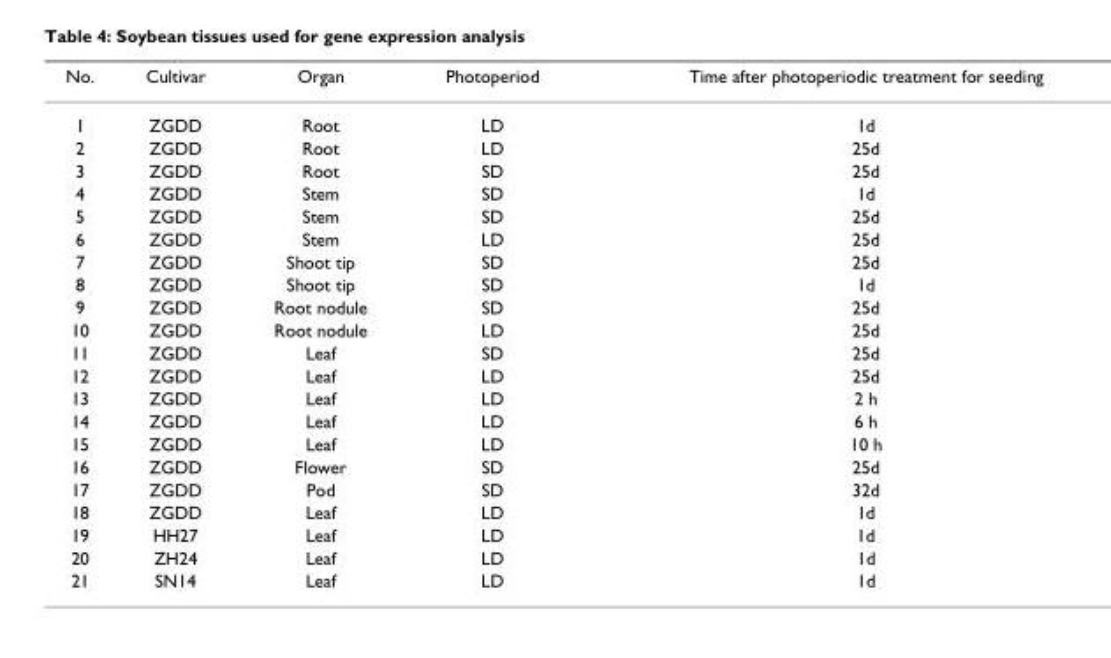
<table><thead><tr><td>No.</td><td>Cultivar</td><td>Organ</td><td>Photoperiod</td><td>Time after photoperiodic treatment for seeding</td></tr></thead><tbody><tr><td>1</td><td>ZGDD</td><td>Root</td><td>LD</td><td>1d</td></tr><tr><td>2</td><td>ZGDD</td><td>Root</td><td>LD</td><td>25d</td></tr><tr><td>3</td><td>ZGDD</td><td>Root</td><td>SD</td><td>25d</td></tr><tr><td>4</td><td>ZGDD</td><td>Stem</td><td>SD</td><td>1d</td></tr><tr><td>5</td><td>ZGDD</td><td>Stem</td><td>SD</td><td>25d</td></tr><tr><td>6</td><td>ZGDD</td><td>Stem</td><td>LD</td><td>25d</td></tr><tr><td>7</td><td>ZGDD</td><td>Shoot tip</td><td>SD</td><td>25d</td></tr><tr><td>8</td><td>ZGDD</td><td>Shoot tip</td><td>SD</td><td>1d</td></tr><tr><td>9</td><td>ZGDD</td><td>Root nodule</td><td>SD</td><td>25d</td></tr><tr><td>10</td><td>ZGDD</td><td>Root nodule</td><td>LD</td><td>25d</td></tr><tr><td>11</td><td>ZGDD</td><td>Leaf</td><td>SD</td><td>25d</td></tr><tr><td>12</td><td>ZGDD</td><td>Leaf</td><td>LD</td><td>25d</td></tr><tr><td>13</td><td>ZGDD</td><td>Leaf</td><td>LD</td><td>2 h</td></tr><tr><td>14</td><td>ZGDD</td><td>Leaf</td><td>LD</td><td>6 h</td></tr><tr><td>15</td><td>ZGDD</td><td>Leaf</td><td>LD</td><td>10 h</td></tr><tr><td>16</td><td>ZGDD</td><td>Flower</td><td>SD</td><td>25d</td></tr><tr><td>17</td><td>ZGDD</td><td>Pod</td><td>SD</td><td>32d</td></tr><tr><td>18</td><td>ZGDD</td><td>Leaf</td><td>LD</td><td>1d</td></tr><tr><td>19</td><td>HH27</td><td>Leaf</td><td>LD</td><td>1d</td></tr><tr><td>20</td><td>ZH24</td><td>Leaf</td><td>LD</td><td>1d</td></tr><tr><td>21</td><td>SN14</td><td>Leaf</td><td>LD</td><td>1d</td></tr></tbody></table>